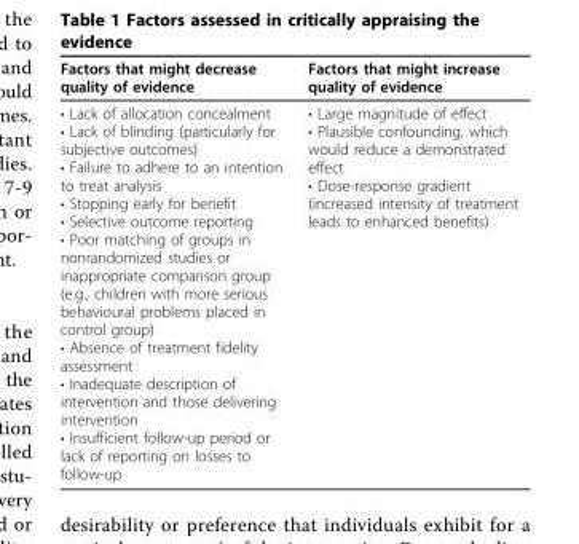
<table><thead><tr><td>Factors that might decrease quality of evidence</td><td>Factors that might increase quality of evidence</td></tr></thead><tbody><tr><td>• Lack of allocation concealment • Lack of blinding (particularly for subjective outcomes) • Failure to adhere to an intention to treat analysis • Stopping early for benefit • Selective outcome reporting • Poor matching of groups in nonrandomized studies or inappropriate comparison group (e.g., children with more serious behavioural problems placed in control group) • Absence of treatment fidelity assessment • Inadequate description of intervention and those delivering intervention • Insufficient follow-up period or lack of reporting on losses to follow-up</td><td>• Large magnitude of effect • Plausible confounding, which would reduce a demonstrated effect • Dose-response gradient (increased intensity of treatment leads to enhanced benefits)</td></tr></tbody></table>